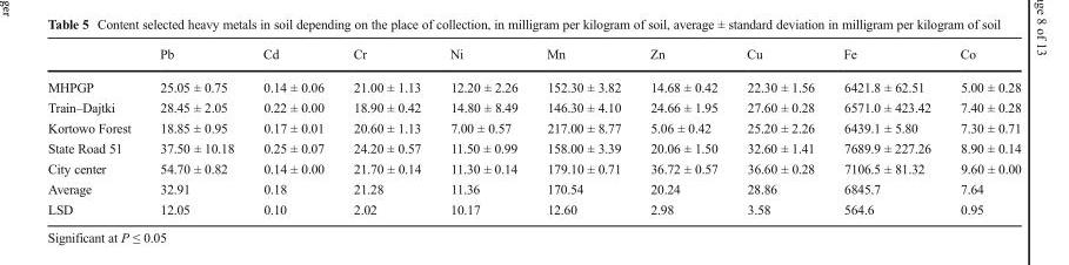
<table><thead><tr><td></td><td>Pb</td><td>Cd</td><td>Cr</td><td>Ni</td><td>Mn</td><td>Zn</td><td>Cu</td><td>Fe</td><td>Co</td></tr></thead><tbody><tr><td>MHPGP</td><td>25.05 ± 0.75</td><td>0.14 ± 0.06</td><td>21.00 ± 1.13</td><td>12.20 ± 2.26</td><td>152.30 ± 3.82</td><td>14.68 ± 0.42</td><td>22.30 ± 1.56</td><td>6421.8 ± 62.51</td><td>5.00 ± 0.28</td></tr><tr><td>Train–Dajtki</td><td>28.45 ± 2.05</td><td>0.22 ± 0.00</td><td>18.90 ± 0.42</td><td>14.80 ± 8.49</td><td>146.30 ± 4.10</td><td>24.66 ± 1.95</td><td>27.60 ± 0.28</td><td>6571.0 ± 423.42</td><td>7.40 ± 0.28</td></tr><tr><td>Kortowo Forest</td><td>18.85 ± 0.95</td><td>0.17 ± 0.01</td><td>20.60 ± 1.13</td><td>7.00 ± 0.57</td><td>217.00 ± 8.77</td><td>5.06 ± 0.42</td><td>25.20 ± 2.26</td><td>6439.1 ± 5.80</td><td>7.30 ± 0.71</td></tr><tr><td>State Road 51</td><td>37.50 ± 10.18</td><td>0.25 ± 0.07</td><td>24.20 ± 0.57</td><td>11.50 ± 0.99</td><td>158.00 ± 3.39</td><td>20.06 ± 1.50</td><td>32.60 ± 1.41</td><td>7689.9 ± 227.26</td><td>8.90 ± 0.14</td></tr><tr><td>City center</td><td>54.70 ± 0.82</td><td>0.14 ± 0.00</td><td>21.70 ± 0.14</td><td>11.30 ± 0.14</td><td>179.10 ± 0.71</td><td>36.72 ± 0.57</td><td>36.60 ± 0.28</td><td>7106.5 ± 81.32</td><td>9.60 ± 0.00</td></tr><tr><td>Average</td><td>32.91</td><td>0.18</td><td>21.28</td><td>11.36</td><td>170.54</td><td>20.24</td><td>28.86</td><td>6845.7</td><td>7.64</td></tr><tr><td>LSD</td><td>12.05</td><td>0.10</td><td>2.02</td><td>10.17</td><td>12.60</td><td>2.98</td><td>3.58</td><td>564.6</td><td>0.95</td></tr></tbody></table>